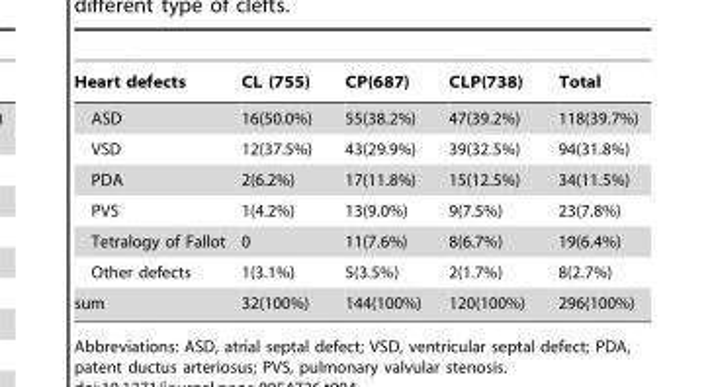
<table><thead><tr><td>Heart defects</td><td>CL (755)</td><td>CP(687)</td><td>CLP(738)</td><td>Total</td></tr></thead><tbody><tr><td>ASD</td><td>16(50.0%)</td><td>55(38.2%)</td><td>47(39.2%)</td><td>118(39.7%)</td></tr><tr><td>VSD</td><td>12(37.5%)</td><td>43(29.9%)</td><td>39(32.5%)</td><td>94(31.8%)</td></tr><tr><td>PDA</td><td>2(6.2%)</td><td>17(11.8%)</td><td>15(12.5%)</td><td>34(11.5%)</td></tr><tr><td>PVS</td><td>1(4.2%)</td><td>13(9.0%)</td><td>9(7.5%)</td><td>23(7.8%)</td></tr><tr><td>Tetralogy of Fallot</td><td>0</td><td>11(7.6%)</td><td>8(6.7%)</td><td>19(6.4%)</td></tr><tr><td>Other defects</td><td>1(3.1%)</td><td>5(3.5%)</td><td>2(1.7%)</td><td>8(2.7%)</td></tr><tr><td>sum</td><td>32(100%)</td><td>144(100%)</td><td>120(100%)</td><td>296(100%)</td></tr></tbody></table>